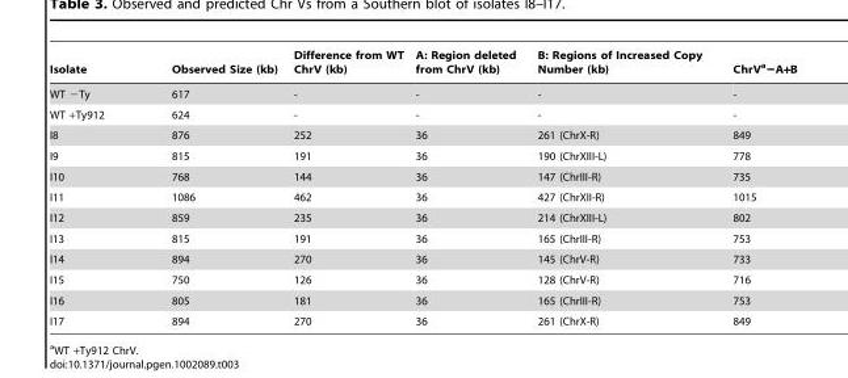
<table><thead><tr><td>Isolate</td><td>Observed Size (kb)</td><td>Difference from WT ChrV (kb)</td><td>A: Region deleted from ChrV (kb)</td><td>B: Regions of Increased Copy Number (kb)</td><td>ChrV<sup>a</sup>−A+B</td></tr></thead><tbody><tr><td>WT −Ty</td><td>617</td><td>-</td><td>-</td><td>-</td><td>-</td></tr><tr><td>WT +Ty912</td><td>624</td><td>-</td><td>-</td><td>-</td><td>-</td></tr><tr><td>I8</td><td>876</td><td>252</td><td>36</td><td>261 (ChrX-R)</td><td>849</td></tr><tr><td>I9</td><td>815</td><td>191</td><td>36</td><td>190 (ChrXIII-L)</td><td>778</td></tr><tr><td>I10</td><td>768</td><td>144</td><td>36</td><td>147 (ChrIII-R)</td><td>735</td></tr><tr><td>I11</td><td>1086</td><td>462</td><td>36</td><td>427 (ChrXII-R)</td><td>1015</td></tr><tr><td>I12</td><td>859</td><td>235</td><td>36</td><td>214 (ChrXIII-L)</td><td>802</td></tr><tr><td>I13</td><td>815</td><td>191</td><td>36</td><td>165 (ChrIII-R)</td><td>753</td></tr><tr><td>I14</td><td>894</td><td>270</td><td>36</td><td>145 (ChrV-R)</td><td>733</td></tr><tr><td>I15</td><td>750</td><td>126</td><td>36</td><td>128 (ChrV-R)</td><td>716</td></tr><tr><td>I16</td><td>805</td><td>181</td><td>36</td><td>165 (ChrIII-R)</td><td>753</td></tr><tr><td>I17</td><td>894</td><td>270</td><td>36</td><td>261 (ChrX-R)</td><td>849</td></tr></tbody></table>